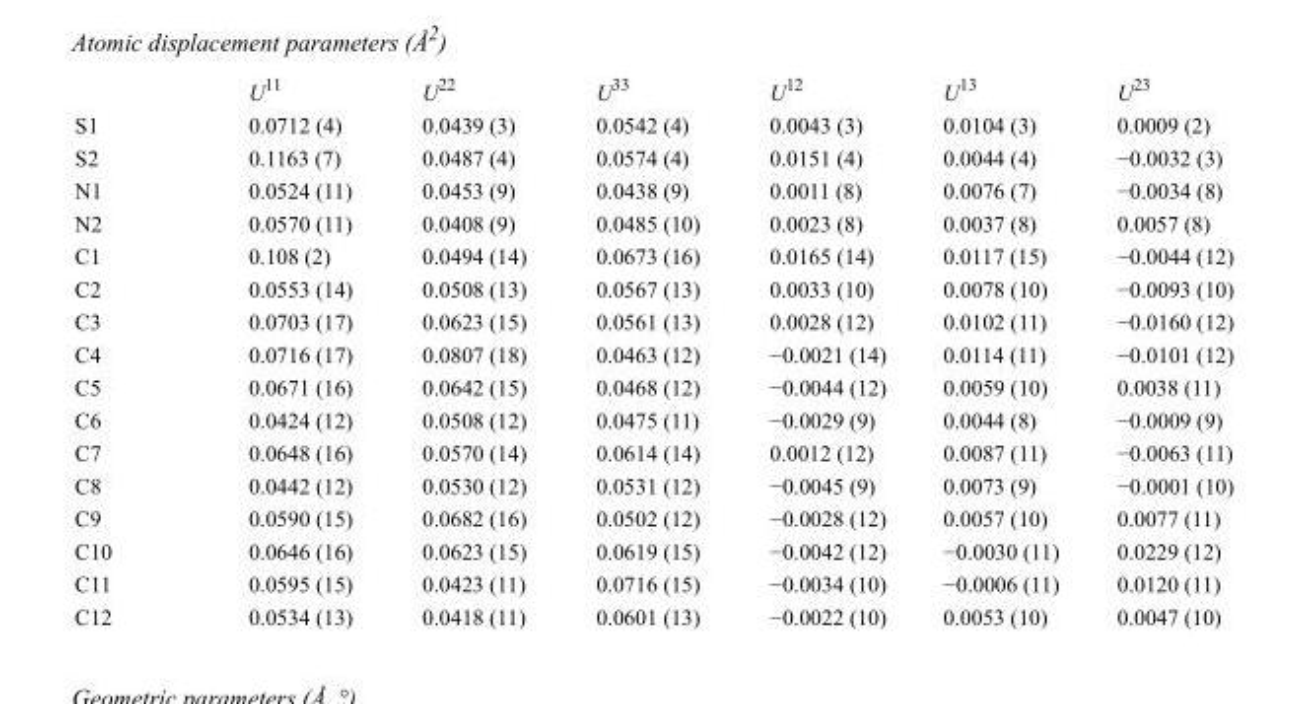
<table><thead><tr><td></td><td>U<sup>11</sup></td><td>U<sup>22</sup></td><td>U<sup>33</sup></td><td>U<sup>12</sup></td><td>U<sup>13</sup></td><td>U<sup>23</sup></td></tr></thead><tbody><tr><td>S1</td><td>0.0712 (4)</td><td>0.0439 (3)</td><td>0.0542 (4)</td><td>0.0043 (3)</td><td>0.0104 (3)</td><td>0.0009 (2)</td></tr><tr><td>S2</td><td>0.1163 (7)</td><td>0.0487 (4)</td><td>0.0574 (4)</td><td>0.0151 (4)</td><td>0.0044 (4)</td><td>−0.0032 (3)</td></tr><tr><td>N1</td><td>0.0524 (11)</td><td>0.0453 (9)</td><td>0.0438 (9)</td><td>0.0011 (8)</td><td>0.0076 (7)</td><td>−0.0034 (8)</td></tr><tr><td>N2</td><td>0.0570 (11)</td><td>0.0408 (9)</td><td>0.0485 (10)</td><td>0.0023 (8)</td><td>0.0037 (8)</td><td>0.0057 (8)</td></tr><tr><td>C1</td><td>0.108 (2)</td><td>0.0494 (14)</td><td>0.0673 (16)</td><td>0.0165 (14)</td><td>0.0117 (15)</td><td>−0.0044 (12)</td></tr><tr><td>C2</td><td>0.0553 (14)</td><td>0.0508 (13)</td><td>0.0567 (13)</td><td>0.0033 (10)</td><td>0.0078 (10)</td><td>−0.0093 (10)</td></tr><tr><td>C3</td><td>0.0703 (17)</td><td>0.0623 (15)</td><td>0.0561 (13)</td><td>0.0028 (12)</td><td>0.0102 (11)</td><td>−0.0160 (12)</td></tr><tr><td>C4</td><td>0.0716 (17)</td><td>0.0807 (18)</td><td>0.0463 (12)</td><td>−0.0021 (14)</td><td>0.0114 (11)</td><td>−0.0101 (12)</td></tr><tr><td>C5</td><td>0.0671 (16)</td><td>0.0642 (15)</td><td>0.0468 (12)</td><td>−0.0044 (12)</td><td>0.0059 (10)</td><td>0.0038 (11)</td></tr><tr><td>C6</td><td>0.0424 (12)</td><td>0.0508 (12)</td><td>0.0475 (11)</td><td>−0.0029 (9)</td><td>0.0044 (8)</td><td>−0.0009 (9)</td></tr><tr><td>C7</td><td>0.0648 (16)</td><td>0.0570 (14)</td><td>0.0614 (14)</td><td>0.0012 (12)</td><td>0.0087 (11)</td><td>−0.0063 (11)</td></tr><tr><td>C8</td><td>0.0442 (12)</td><td>0.0530 (12)</td><td>0.0531 (12)</td><td>−0.0045 (9)</td><td>0.0073 (9)</td><td>−0.0001 (10)</td></tr><tr><td>C9</td><td>0.0590 (15)</td><td>0.0682 (16)</td><td>0.0502 (12)</td><td>−0.0028 (12)</td><td>0.0057 (10)</td><td>0.0077 (11)</td></tr><tr><td>C10</td><td>0.0646 (16)</td><td>0.0623 (15)</td><td>0.0619 (15)</td><td>−0.0042 (12)</td><td>−0.0030 (11)</td><td>0.0229 (12)</td></tr><tr><td>C11</td><td>0.0595 (15)</td><td>0.0423 (11)</td><td>0.0716 (15)</td><td>−0.0034 (10)</td><td>−0.0006 (11)</td><td>0.0120 (11)</td></tr><tr><td>C12</td><td>0.0534 (13)</td><td>0.0418 (11)</td><td>0.0601 (13)</td><td>−0.0022 (10)</td><td>0.0053 (10)</td><td>0.0047 (10)</td></tr></tbody></table>